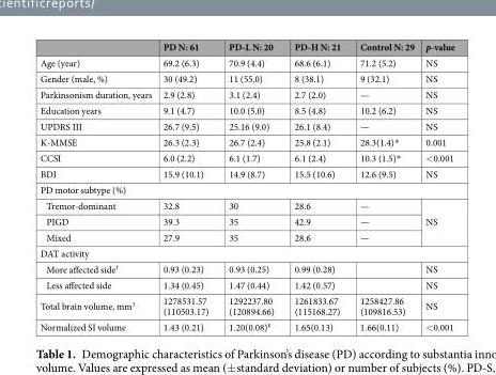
<table><thead><tr><td></td><td>PD N: 61</td><td>PD-L N: 20</td><td>PD-H N: 21</td><td>Control N: 29</td><td>p-value</td></tr></thead><tbody><tr><td>Age (year)</td><td>69.2 (6.3)</td><td>70.9 (4.4)</td><td>68.6 (6.1)</td><td>71.2 (5.2)</td><td>NS</td></tr><tr><td>Gender (male, %)</td><td>30 (49.2)</td><td>11 (55.0)</td><td>8 (38.1)</td><td>9 (32.1)</td><td>NS</td></tr><tr><td>Parkinsonism duration, years</td><td>2.9 (2.8)</td><td>3.1 (2.4)</td><td>2.7 (2.0)</td><td>—</td><td>NS</td></tr><tr><td>Education years</td><td>9.1 (4.7)</td><td>10.0 (5.0)</td><td>8.5 (4.8)</td><td>10.2 (6.2)</td><td>NS</td></tr><tr><td>UPDRS III</td><td>26.7 (9.5)</td><td>25.16 (9.0)</td><td>26.1 (8.4)</td><td>—</td><td>NS</td></tr><tr><td>K-MMSE</td><td>26.3 (2.3)</td><td>26.7 (2.4)</td><td>25.8 (2.1)</td><td>28.3(1.4)*</td><td>0.001</td></tr><tr><td>CCSI</td><td>6.0 (2.2)</td><td>6.1 (1.7)</td><td>6.1 (2.4)</td><td>10.3 (1.5)*</td><td>&lt;0.001</td></tr><tr><td>BDI</td><td>15.9 (10.1)</td><td>14.9 (8.7)</td><td>15.5 (10.6)</td><td>12.6 (9.5)</td><td>NS</td></tr><tr><td colspan="6">PD motor subtype (%)</td></tr><tr><td>Tremor-dominant</td><td>32.8</td><td>30</td><td>28.6</td><td>—</td><td rowspan="3">NS</td></tr><tr><td>PIGD</td><td>39.3</td><td>35</td><td>42.9</td><td>—</td></tr><tr><td>Mixed</td><td>27.9</td><td>35</td><td>28.6</td><td>—</td></tr><tr><td colspan="6">DAT activity</td></tr><tr><td>More affected side<sup>†</sup></td><td>0.93 (0.23)</td><td>0.93 (0.25)</td><td>0.99 (0.28)</td><td></td><td>NS</td></tr><tr><td>Less affected side</td><td>1.34 (0.45)</td><td>1.47 (0.44)</td><td>1.42 (0.57)</td><td></td><td>NS</td></tr><tr><td>Total brain volume, mm<sup>3</sup></td><td>1278531.57 (110503.17)</td><td>1292237.80 (120894.66)</td><td>1261833.67 (115168.27)</td><td>1258427.86 (109816.53)</td><td>NS</td></tr><tr><td>Normalized SI volume</td><td>1.43 (0.21)</td><td>1.20(0.08)<sup>‡</sup></td><td>1.65(0.13)</td><td>1.66(0.11)</td><td>&lt;0.001</td></tr></tbody></table>